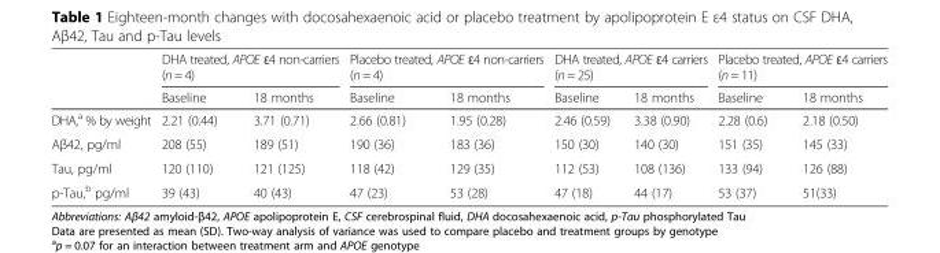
<table><thead><tr><td rowspan="2"></td><td colspan="2">DHA treated, APOE ɛ4 non-carriers (n = 4)</td><td colspan="2">Placebo treated, APOE ɛ4 non-carriers (n = 4)</td><td colspan="2">DHA treated, APOE ɛ4 carriers (n = 25)</td><td colspan="2">Placebo treated, APOE ɛ4 carriers (n = 11)</td></tr><tr><td>Baseline</td><td>18 months</td><td>Baseline</td><td>18 months</td><td>Baseline</td><td>18 months</td><td>Baseline</td><td>18 months</td></tr></thead><tbody><tr><td>DHA,<sup>a</sup> % by weight</td><td>2.21 (0.44)</td><td>3.71 (0.71)</td><td>2.66 (0.81)</td><td>1.95 (0.28)</td><td>2.46 (0.59)</td><td>3.38 (0.90)</td><td>2.28 (0.6)</td><td>2.18 (0.50)</td></tr><tr><td>Aβ42, pg/ml</td><td>208 (55)</td><td>189 (51)</td><td>190 (36)</td><td>183 (36)</td><td>150 (30)</td><td>140 (30)</td><td>151 (35)</td><td>145 (33)</td></tr><tr><td>Tau, pg/ml</td><td>120 (110)</td><td>121 (125)</td><td>118 (42)</td><td>129 (35)</td><td>112 (53)</td><td>108 (136)</td><td>133 (94)</td><td>126 (88)</td></tr><tr><td>p-Tau,<sup>b</sup> pg/ml</td><td>39 (43)</td><td>40 (43)</td><td>47 (23)</td><td>53 (28)</td><td>47 (18)</td><td>44 (17)</td><td>53 (37)</td><td>51(33)</td></tr></tbody></table>